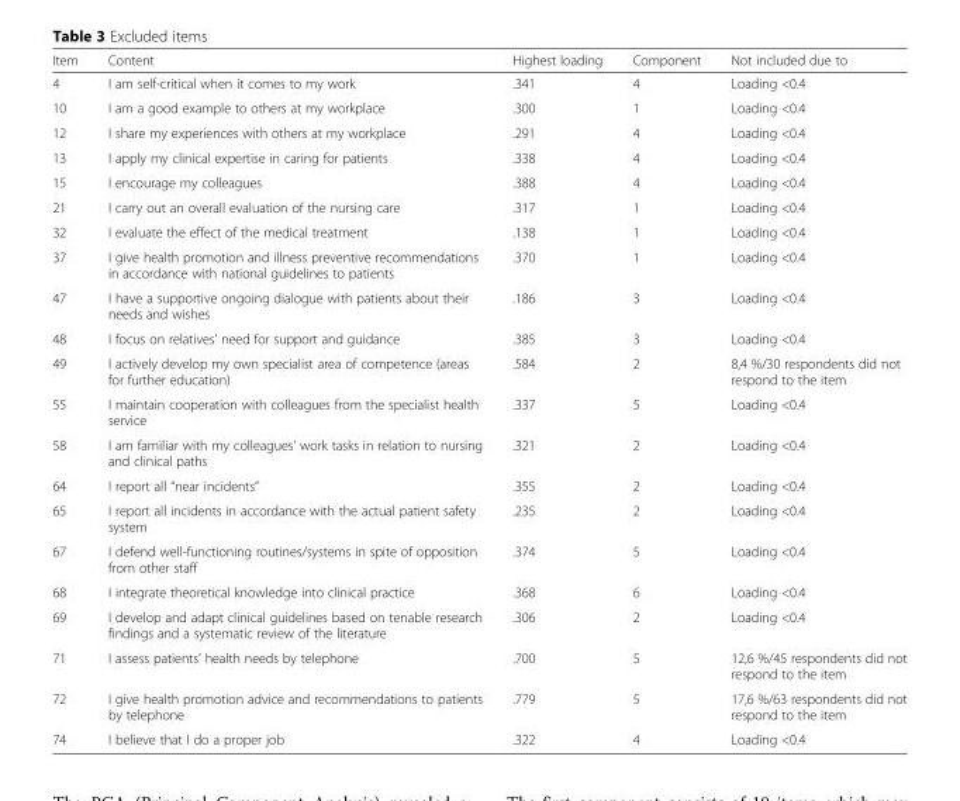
<table><thead><tr><td>Item</td><td>Content</td><td>Highest loading</td><td>Component</td><td>Not included due to</td></tr></thead><tbody><tr><td>4</td><td>I am self-critical when it comes to my work</td><td>.341</td><td>4</td><td>Loading &lt;0.4</td></tr><tr><td>10</td><td>I am a good example to others at my workplace</td><td>.300</td><td>1</td><td>Loading &lt;0.4</td></tr><tr><td>12</td><td>I share my experiences with others at my workplace</td><td>.291</td><td>4</td><td>Loading &lt;0.4</td></tr><tr><td>13</td><td>I apply my clinical expertise in caring for patients</td><td>.338</td><td>4</td><td>Loading &lt;0.4</td></tr><tr><td>15</td><td>I encourage my colleagues</td><td>.388</td><td>4</td><td>Loading &lt;0.4</td></tr><tr><td>21</td><td>I carry out an overall evaluation of the nursing care</td><td>.317</td><td>1</td><td>Loading &lt;0.4</td></tr><tr><td>32</td><td>I evaluate the effect of the medical treatment</td><td>.138</td><td>1</td><td>Loading &lt;0.4</td></tr><tr><td>37</td><td>I give health promotion and illness preventive recommendations in accordance with national guidelines to patients</td><td>.370</td><td>1</td><td>Loading &lt;0.4</td></tr><tr><td>47</td><td>I have a supportive ongoing dialogue with patients about their needs and wishes</td><td>.186</td><td>3</td><td>Loading &lt;0.4</td></tr><tr><td>48</td><td>I focus on relatives’ need for support and guidance</td><td>.385</td><td>3</td><td>Loading &lt;0.4</td></tr><tr><td>49</td><td>I actively develop my own specialist area of competence (areas for further education)</td><td>.584</td><td>2</td><td>8,4 %/30 respondents did not respond to the item</td></tr><tr><td>55</td><td>I maintain cooperation with colleagues from the specialist health service</td><td>.337</td><td>5</td><td>Loading &lt;0.4</td></tr><tr><td>58</td><td>I am familiar with my colleagues’ work tasks in relation to nursing and clinical paths</td><td>.321</td><td>2</td><td>Loading &lt;0.4</td></tr><tr><td>64</td><td>I report all “near incidents”</td><td>.355</td><td>2</td><td>Loading &lt;0.4</td></tr><tr><td>65</td><td>I report all incidents in accordance with the actual patient safety system</td><td>.235</td><td>2</td><td>Loading &lt;0.4</td></tr><tr><td>67</td><td>I defend well-functioning routines/systems in spite of opposition from other staff</td><td>.374</td><td>5</td><td>Loading &lt;0.4</td></tr><tr><td>68</td><td>I integrate theoretical knowledge into clinical practice</td><td>.368</td><td>6</td><td>Loading &lt;0.4</td></tr><tr><td>69</td><td>I develop and adapt clinical guidelines based on tenable research findings and a systematic review of the literature</td><td>.306</td><td>2</td><td>Loading &lt;0.4</td></tr><tr><td>71</td><td>I assess patients’ health needs by telephone</td><td>.700</td><td>5</td><td>12,6 %/45 respondents did not respond to the item</td></tr><tr><td>72</td><td>I give health promotion advice and recommendations to patients by telephone</td><td>.779</td><td>5</td><td>17,6 %/63 respondents did not respond to the item</td></tr><tr><td>74</td><td>I believe that I do a proper job</td><td>.322</td><td>4</td><td>Loading &lt;0.4</td></tr></tbody></table>